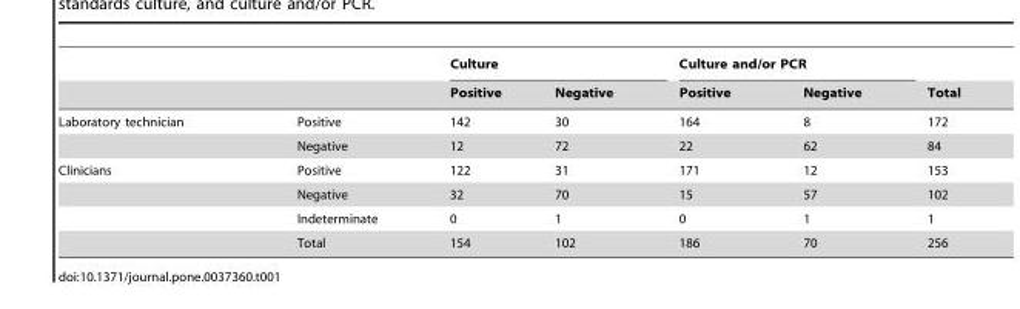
<table><thead><tr><td rowspan="2"></td><td rowspan="2"></td><td colspan="2">Culture</td><td colspan="2">Culture and/or PCR</td><td rowspan="2">Total</td></tr><tr><td>Positive</td><td>Negative</td><td>Positive</td><td>Negative</td></tr></thead><tbody><tr><td rowspan="2">Laboratory technician</td><td>Positive</td><td>142</td><td>30</td><td>164</td><td>8</td><td>172</td></tr><tr><td>Negative</td><td>12</td><td>72</td><td>22</td><td>62</td><td>84</td></tr><tr><td rowspan="4">Clinicians</td><td>Positive</td><td>122</td><td>31</td><td>171</td><td>12</td><td>153</td></tr><tr><td>Negative</td><td>32</td><td>70</td><td>15</td><td>57</td><td>102</td></tr><tr><td>Indeterminate</td><td>0</td><td>1</td><td>0</td><td>1</td><td>1</td></tr><tr><td>Total</td><td>154</td><td>102</td><td>186</td><td>70</td><td>256</td></tr></tbody></table>